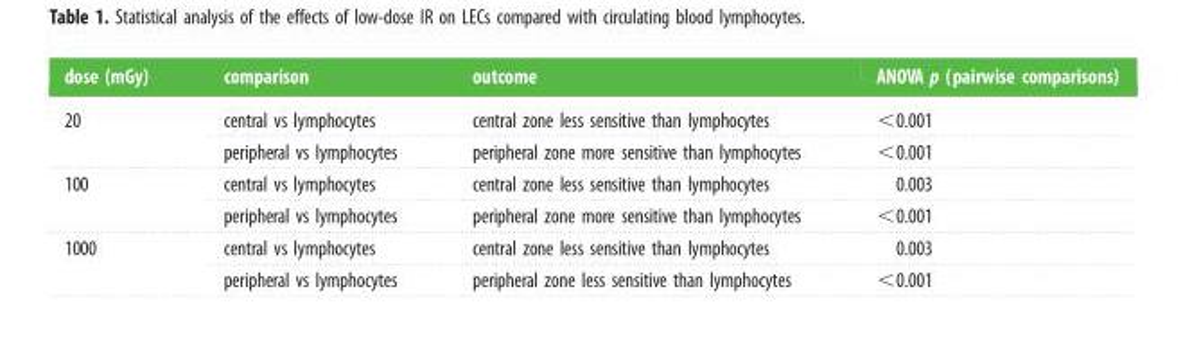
<table><thead><tr><td>dose (mGy)</td><td>comparison</td><td>outcome</td><td>ANOVA p (pairwise comparisons)</td></tr></thead><tbody><tr><td rowspan="2">20</td><td>central vs lymphocytes</td><td>central zone less sensitive than lymphocytes</td><td>&lt;0.001</td></tr><tr><td>peripheral vs lymphocytes</td><td>peripheral zone more sensitive than lymphocytes</td><td>&lt;0.001</td></tr><tr><td rowspan="2">100</td><td>central vs lymphocytes</td><td>central zone less sensitive than lymphocytes</td><td>0.003</td></tr><tr><td>peripheral vs lymphocytes</td><td>peripheral zone more sensitive than lymphocytes</td><td>&lt;0.001</td></tr><tr><td rowspan="2">1000</td><td>central vs lymphocytes</td><td>central zone less sensitive than lymphocytes</td><td>0.003</td></tr><tr><td>peripheral vs lymphocytes</td><td>peripheral zone less sensitive than lymphocytes</td><td>&lt;0.001</td></tr></tbody></table>